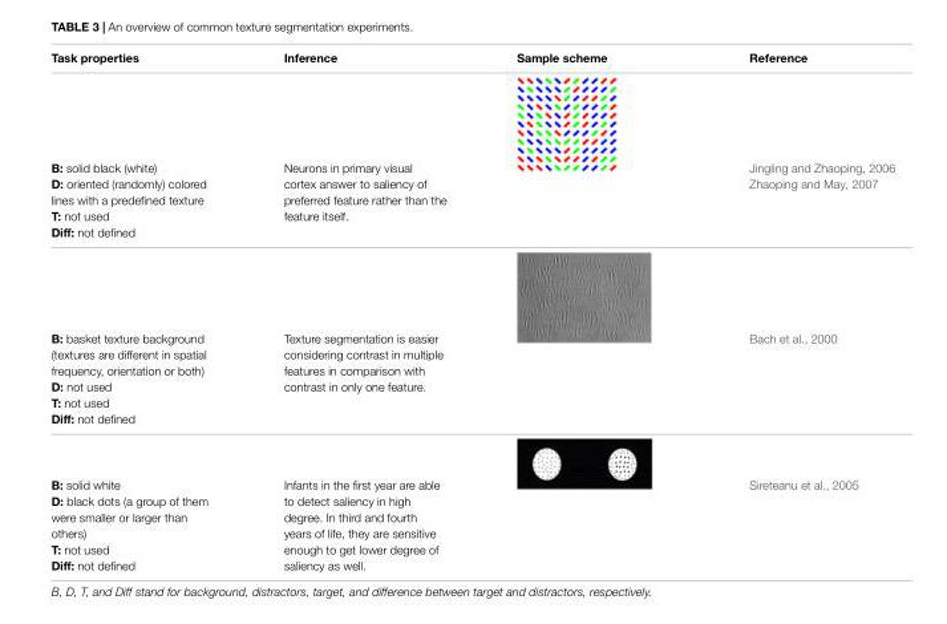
<table><thead><tr><td>Task properties</td><td>Inference</td><td>Sample scheme</td><td>Reference</td></tr></thead><tbody><tr><td>B: solid black (white) D: oriented (randomly) colored lines with a predefined texture T: not used Diff: not defined</td><td>Neurons in primary visual cortex answer to saliency of preferred feature rather than the feature itself.</td><td></td><td>Jingling and Zhaoping, 2006 Zhaoping and May, 2007</td></tr><tr><td>B: basket texture background (textures are different in spatial frequency, orientation or both) D: not used T: not used Diff: not defined</td><td>Texture segmentation is easier considering contrast in multiple features in comparison with contrast in only one feature.</td><td></td><td>Bach et al., 2000</td></tr><tr><td>B: solid white D: black dots (a group of them were smaller or larger than others) T: not used Diff: not defined</td><td>Infants in the first year are able to detect saliency in high degree. In third and fourth years of life, they are sensitive enough to get lower degree of saliency as well.</td><td></td><td>Sireteanu et al., 2005</td></tr></tbody></table>